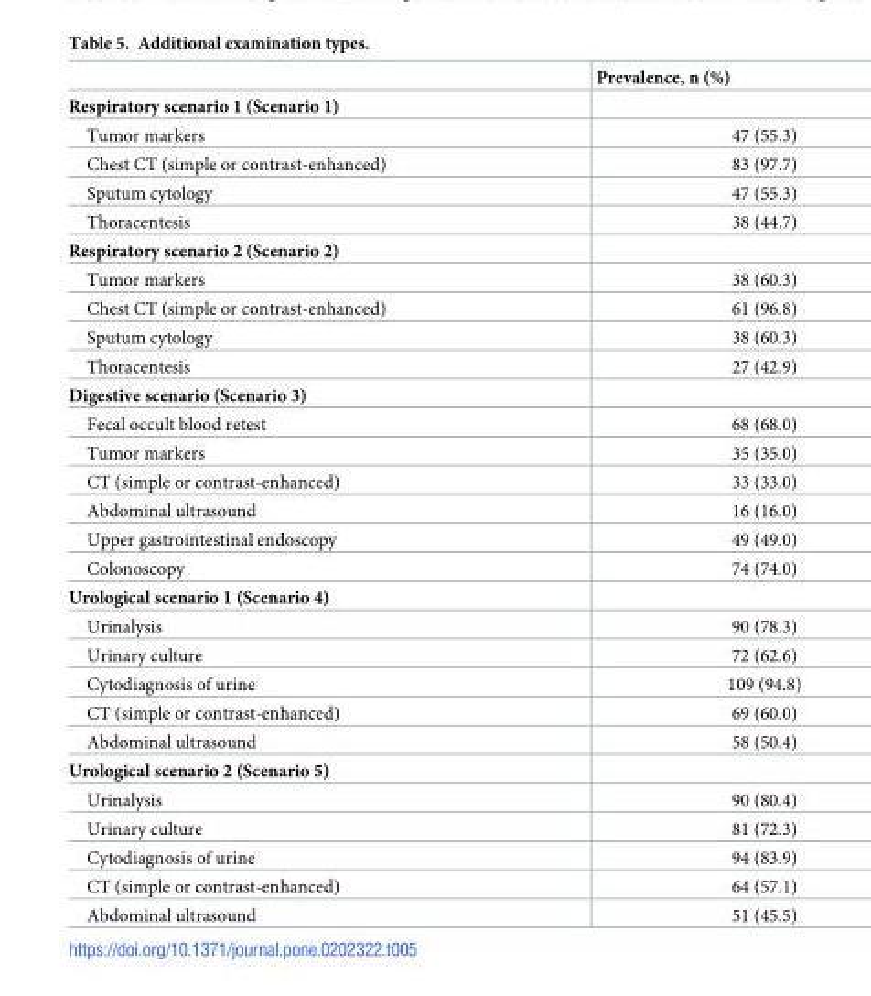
<table><thead><tr><td></td><td>Prevalence, n (%)</td></tr></thead><tbody><tr><td colspan="2">Respiratory scenario 1 (Scenario 1)</td></tr><tr><td>Tumor markers</td><td>47 (55.3)</td></tr><tr><td>Chest CT (simple or contrast-enhanced)</td><td>83 (97.7)</td></tr><tr><td>Sputum cytology</td><td>47 (55.3)</td></tr><tr><td>Thoracentesis</td><td>38 (44.7)</td></tr><tr><td colspan="2">Respiratory scenario 2 (Scenario 2)</td></tr><tr><td>Tumor markers</td><td>38 (60.3)</td></tr><tr><td>Chest CT (simple or contrast-enhanced)</td><td>61 (96.8)</td></tr><tr><td>Sputum cytology</td><td>38 (60.3)</td></tr><tr><td>Thoracentesis</td><td>27 (42.9)</td></tr><tr><td colspan="2">Digestive scenario (Scenario 3)</td></tr><tr><td>Fecal occult blood retest</td><td>68 (68.0)</td></tr><tr><td>Tumor markers</td><td>35 (35.0)</td></tr><tr><td>CT (simple or contrast-enhanced)</td><td>33 (33.0)</td></tr><tr><td>Abdominal ultrasound</td><td>16 (16.0)</td></tr><tr><td>Upper gastrointestinal endoscopy</td><td>49 (49.0)</td></tr><tr><td>Colonoscopy</td><td>74 (74.0)</td></tr><tr><td colspan="2">Urological scenario 1 (Scenario 4)</td></tr><tr><td>Urinalysis</td><td>90 (78.3)</td></tr><tr><td>Urinary culture</td><td>72 (62.6)</td></tr><tr><td>Cytodiagnosis of urine</td><td>109 (94.8)</td></tr><tr><td>CT (simple or contrast-enhanced)</td><td>69 (60.0)</td></tr><tr><td>Abdominal ultrasound</td><td>58 (50.4)</td></tr><tr><td colspan="2">Urological scenario 2 (Scenario 5)</td></tr><tr><td>Urinalysis</td><td>90 (80.4)</td></tr><tr><td>Urinary culture</td><td>81 (72.3)</td></tr><tr><td>Cytodiagnosis of urine</td><td>94 (83.9)</td></tr><tr><td>CT (simple or contrast-enhanced)</td><td>64 (57.1)</td></tr><tr><td>Abdominal ultrasound</td><td>51 (45.5)</td></tr></tbody></table>